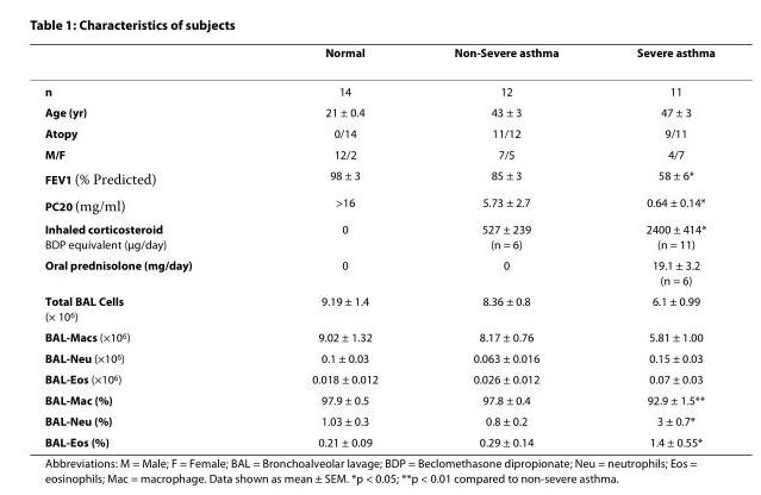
<table><thead><tr><td></td><td>Normal</td><td>Non-Severe asthma</td><td>Severe asthma</td></tr></thead><tbody><tr><td>n</td><td>14</td><td>12</td><td>11</td></tr><tr><td>Age (yr)</td><td>21 ± 0.4</td><td>43 ± 3</td><td>47 ± 3</td></tr><tr><td>Atopy</td><td>0/14</td><td>11/12</td><td>9/11</td></tr><tr><td>M/F</td><td>12/2</td><td>7/5</td><td>4/7</td></tr><tr><td>FEV<sub>1</sub> (% Predicted)</td><td>98 ± 3</td><td>85 ± 3</td><td>58 ± 6*</td></tr><tr><td>PC<sub>20</sub> (mg/ml)</td><td>&gt;16</td><td>5.73 ± 2.7</td><td>0.64 ± 0.14*</td></tr><tr><td>Inhaled corticosteroid BDP equivalent (μg/day)</td><td>0</td><td>527 ± 239 (n = 6)</td><td>2400 ± 414* (n = 11)</td></tr><tr><td>Oral prednisolone (mg/day)</td><td>0</td><td>0</td><td>19.1 ± 3.2 (n = 6)</td></tr><tr><td>Total BAL Cells (× 10<sup>6</sup>)</td><td>9.19 ± 1.4</td><td>8.36 ± 0.8</td><td>6.1 ± 0.99</td></tr><tr><td>BAL-Macs (×10<sup>6</sup>)</td><td>9.02 ± 1.32</td><td>8.17 ± 0.76</td><td>5.81 ± 1.00</td></tr><tr><td>BAL-Neu (×10<sup>6</sup>)</td><td>0.1 ± 0.03</td><td>0.063 ± 0.016</td><td>0.15 ± 0.03</td></tr><tr><td>BAL-Eos (×10<sup>6</sup>)</td><td>0.018 ± 0.012</td><td>0.026 ± 0.012</td><td>0.07 ± 0.03</td></tr><tr><td>BAL-Mac (%)</td><td>97.9 ± 0.5</td><td>97.8 ± 0.4</td><td>92.9 ± 1.5**</td></tr><tr><td>BAL-Neu (%)</td><td>1.03 ± 0.3</td><td>0.8 ± 0.2</td><td>3 ± 0.7*</td></tr><tr><td>BAL-Eos (%)</td><td>0.21 ± 0.09</td><td>0.29 ± 0.14</td><td>1.4 ± 0.55*</td></tr></tbody></table>